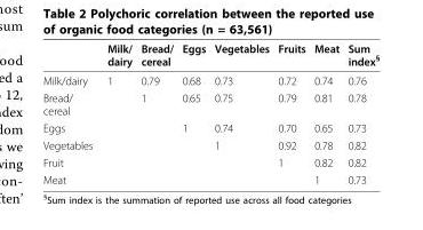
<table><thead><tr><td></td><td>Milk/ dairy</td><td>Bread/ cereal</td><td>Eggs</td><td>Vegetables</td><td>Fruits</td><td>Meat</td><td>Sum index<sup>§</sup></td></tr></thead><tbody><tr><td>Milk/dairy</td><td>1</td><td>0.79</td><td>0.68</td><td>0.73</td><td>0.72</td><td>0.74</td><td>0.76</td></tr><tr><td>Bread/ cereal</td><td></td><td>1</td><td>0.65</td><td>0.75</td><td>0.79</td><td>0.81</td><td>0.78</td></tr><tr><td>Eggs</td><td></td><td></td><td>1</td><td>0.74</td><td>0.70</td><td>0.65</td><td>0.73</td></tr><tr><td>Vegetables</td><td></td><td></td><td></td><td>1</td><td>0.92</td><td>0.78</td><td>0.82</td></tr><tr><td>Fruit</td><td></td><td></td><td></td><td></td><td>1</td><td>0.82</td><td>0.82</td></tr><tr><td>Meat</td><td></td><td></td><td></td><td></td><td></td><td>1</td><td>0.73</td></tr></tbody></table>